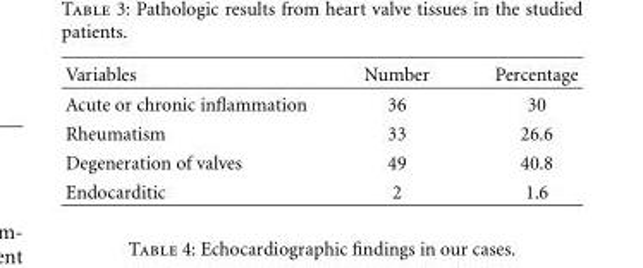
<table><thead><tr><td>Variables</td><td>Number</td><td>Percentage</td></tr></thead><tbody><tr><td>Acute or chronic inflammation</td><td>36</td><td>30</td></tr><tr><td>Rheumatism</td><td>33</td><td>26.6</td></tr><tr><td>Degeneration of valves</td><td>49</td><td>40.8</td></tr><tr><td>Endocarditic</td><td>2</td><td>1.6</td></tr></tbody></table>